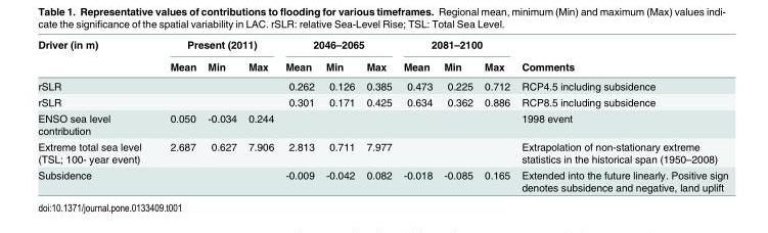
<table><thead><tr><td rowspan="2">Driver (in m)</td><td colspan="3">Present (2011)</td><td colspan="3">2046–2065</td><td colspan="3">2081–2100</td><td rowspan="2">Comments</td></tr><tr><td>Mean</td><td>Min</td><td>Max</td><td>Mean</td><td>Min</td><td>Max</td><td>Mean</td><td>Min</td><td>Max</td></tr></thead><tbody><tr><td>rSLR</td><td></td><td></td><td></td><td>0.262</td><td>0.126</td><td>0.385</td><td>0.473</td><td>0.225</td><td>0.712</td><td>RCP4.5 including subsidence</td></tr><tr><td>rSLR</td><td></td><td></td><td></td><td>0.301</td><td>0.171</td><td>0.425</td><td>0.634</td><td>0.362</td><td>0.886</td><td>RCP8.5 including subsidence</td></tr><tr><td>ENSO sea level contribution</td><td>0.050</td><td>-0.034</td><td>0.244</td><td></td><td></td><td></td><td></td><td></td><td></td><td>1998 event</td></tr><tr><td>Extreme total sea level (TSL; 100- year event)</td><td>2.687</td><td>0.627</td><td>7.906</td><td>2.813</td><td>0.711</td><td>7.977</td><td></td><td></td><td></td><td>Extrapolation of non-stationary extreme statistics in the historical span (1950–2008)</td></tr><tr><td>Subsidence</td><td></td><td></td><td></td><td>-0.009</td><td>-0.042</td><td>0.082</td><td>-0.018</td><td>-0.085</td><td>0.165</td><td>Extended into the future linearly. Positive sign denotes subsidence and negative, land uplift</td></tr></tbody></table>